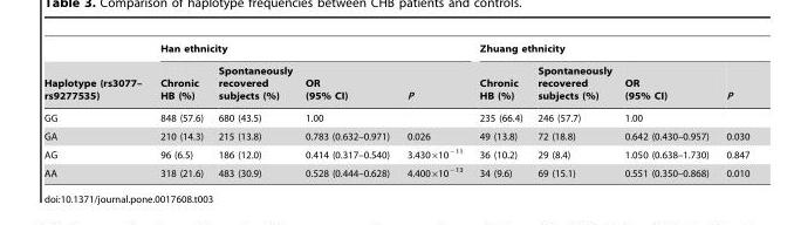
<table><thead><tr><td rowspan="2">Haplotype (rs3077– rs9277535)</td><td colspan="4">Han ethnicity</td><td colspan="4">Zhuang ethnicity</td></tr><tr><td>Chronic HB (%)</td><td>Spontaneously recovered subjects (%)</td><td>OR (95% CI)</td><td>P</td><td>Chronic HB (%)</td><td>Spontaneously recovered subjects (%)</td><td>OR (95% CI)</td><td>P</td></tr></thead><tbody><tr><td>GG</td><td>848 (57.6)</td><td>680 (43.5)</td><td>1.00</td><td></td><td>235 (66.4)</td><td>246 (57.7)</td><td>1.00</td><td></td></tr><tr><td>GA</td><td>210 (14.3)</td><td>215 (13.8)</td><td>0.783 (0.632–0.971)</td><td>0.026</td><td>49 (13.8)</td><td>72 (18.8)</td><td>0.642 (0.430–0.957)</td><td>0.030</td></tr><tr><td>AG</td><td>96 (6.5)</td><td>186 (12.0)</td><td>0.414 (0.317–0.540)</td><td>3.430×10<sup>−11</sup></td><td>36 (10.2)</td><td>29 (8.4)</td><td>1.050 (0.638–1.730)</td><td>0.847</td></tr><tr><td>AA</td><td>318 (21.6)</td><td>483 (30.9)</td><td>0.528 (0.444–0.628)</td><td>4.400×10<sup>−13</sup></td><td>34 (9.6)</td><td>69 (15.1)</td><td>0.551 (0.350–0.868)</td><td>0.010</td></tr></tbody></table>